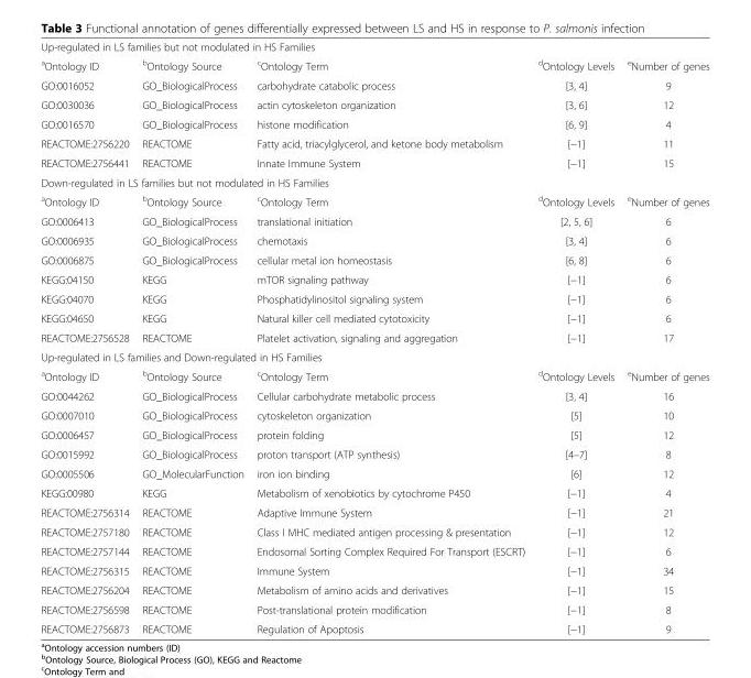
<table><tbody><tr><td colspan="5">Up-regulated in LS families but not modulated in HS Families</td></tr><tr><td><sup>a</sup>Ontology ID</td><td><sup>b</sup>Ontology Source</td><td><sup>c</sup>Ontology Term</td><td><sup>d</sup>Ontology Levels</td><td><sup>e</sup>Number of genes</td></tr><tr><td>GO:0016052</td><td>GO_BiologicalProcess</td><td>carbohydrate catabolic process</td><td>[3, 4]</td><td>9</td></tr><tr><td>GO:0030036</td><td>GO_BiologicalProcess</td><td>actin cytoskeleton organization</td><td>[3, 6]</td><td>12</td></tr><tr><td>GO:0016570</td><td>GO_BiologicalProcess</td><td>histone modification</td><td>[6, 9]</td><td>4</td></tr><tr><td>REACTOME:2756220</td><td>REACTOME</td><td>Fatty acid, triacylglycerol, and ketone body metabolism</td><td>[−1]</td><td>11</td></tr><tr><td>REACTOME:2756441</td><td>REACTOME</td><td>Innate Immune System</td><td>[−1]</td><td>15</td></tr><tr><td colspan="5">Down-regulated in LS families but not modulated in HS Families</td></tr><tr><td><sup>a</sup>Ontology ID</td><td><sup>b</sup>Ontology Source</td><td><sup>c</sup>Ontology Term</td><td><sup>d</sup>Ontology Levels</td><td><sup>e</sup>Number of genes</td></tr><tr><td>GO:0006413</td><td>GO_BiologicalProcess</td><td>translational initiation</td><td>[2, 5, 6]</td><td>6</td></tr><tr><td>GO:0006935</td><td>GO_BiologicalProcess</td><td>chemotaxis</td><td>[3, 4]</td><td>6</td></tr><tr><td>GO:0006875</td><td>GO_BiologicalProcess</td><td>cellular metal ion homeostasis</td><td>[6, 8]</td><td>6</td></tr><tr><td>KEGG:04150</td><td>KEGG</td><td>mTOR signaling pathway</td><td>[−1]</td><td>6</td></tr><tr><td>KEGG:04070</td><td>KEGG</td><td>Phosphatidylinositol signaling system</td><td>[−1]</td><td>6</td></tr><tr><td>KEGG:04650</td><td>KEGG</td><td>Natural killer cell mediated cytotoxicity</td><td>[−1]</td><td>6</td></tr><tr><td>REACTOME:2756528</td><td>REACTOME</td><td>Platelet activation, signaling and aggregation</td><td>[−1]</td><td>17</td></tr><tr><td colspan="5">Up-regulated in LS families and Down-regulated in HS Families</td></tr><tr><td><sup>a</sup>Ontology ID</td><td><sup>b</sup>Ontology Source</td><td><sup>c</sup>Ontology Term</td><td><sup>d</sup>Ontology Levels</td><td><sup>e</sup>Number of genes</td></tr><tr><td>GO:0044262</td><td>GO_BiologicalProcess</td><td>Cellular carbohydrate metabolic process</td><td>[3, 4]</td><td>16</td></tr><tr><td>GO:0007010</td><td>GO_BiologicalProcess</td><td>cytoskeleton organization</td><td>[5]</td><td>10</td></tr><tr><td>GO:0006457</td><td>GO_BiologicalProcess</td><td>protein folding</td><td>[5]</td><td>12</td></tr><tr><td>GO:0015992</td><td>GO_BiologicalProcess</td><td>proton transport (ATP synthesis)</td><td>[4–7]</td><td>8</td></tr><tr><td>GO:0005506</td><td>GO_MolecularFunction</td><td>iron ion binding</td><td>[6]</td><td>12</td></tr><tr><td>KEGG:00980</td><td>KEGG</td><td>Metabolism of xenobiotics by cytochrome P450</td><td>[−1]</td><td>4</td></tr><tr><td>REACTOME:2756314</td><td>REACTOME</td><td>Adaptive Immune System</td><td>[−1]</td><td>21</td></tr><tr><td>REACTOME:2757180</td><td>REACTOME</td><td>Class I MHC mediated antigen processing &amp; presentation</td><td>[−1]</td><td>12</td></tr><tr><td>REACTOME:2757144</td><td>REACTOME</td><td>Endosomal Sorting Complex Required For Transport (ESCRT)</td><td>[−1]</td><td>6</td></tr><tr><td>REACTOME:2756315</td><td>REACTOME</td><td>Immune System</td><td>[−1]</td><td>34</td></tr><tr><td>REACTOME:2756204</td><td>REACTOME</td><td>Metabolism of amino acids and derivatives</td><td>[−1]</td><td>15</td></tr><tr><td>REACTOME:2756598</td><td>REACTOME</td><td>Post-translational protein modification</td><td>[−1]</td><td>8</td></tr><tr><td>REACTOME:2756873</td><td>REACTOME</td><td>Regulation of Apoptosis</td><td>[−1]</td><td>9</td></tr></tbody></table>